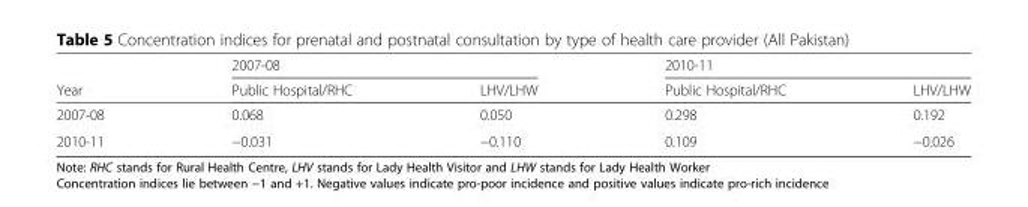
<table><thead><tr><td rowspan="2">Year</td><td colspan="2">2007-08</td><td colspan="2">2010-11</td></tr><tr><td>Public Hospital/RHC</td><td>LHV/LHW</td><td>Public Hospital/RHC</td><td>LHV/LHW</td></tr></thead><tbody><tr><td>2007-08</td><td>0.068</td><td>0.050</td><td>0.298</td><td>0.192</td></tr><tr><td>2010-11</td><td>−0.031</td><td>−0.110</td><td>0.109</td><td>−0.026</td></tr></tbody></table>